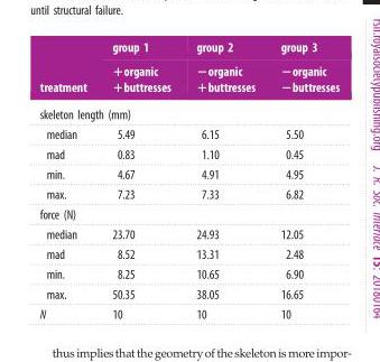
<table><thead><tr><td rowspan="2">treatment</td><td rowspan="2">group 1 +organic +buttresses</td><td rowspan="2">group 2 −organic +buttresses</td><td rowspan="2">group 3 −organic −buttresses</td></tr><tr></tr></thead><tbody><tr><td colspan="4">skeleton length (mm)</td></tr><tr><td>median</td><td>5.49</td><td>6.15</td><td>5.50</td></tr><tr><td>mad</td><td>0.83</td><td>1.10</td><td>0.45</td></tr><tr><td>min.</td><td>4.67</td><td>4.91</td><td>4.95</td></tr><tr><td>max.</td><td>7.23</td><td>7.33</td><td>6.82</td></tr><tr><td colspan="4">force (N)</td></tr><tr><td>median</td><td>23.70</td><td>24.93</td><td>12.05</td></tr><tr><td>mad</td><td>8.52</td><td>13.31</td><td>2.48</td></tr><tr><td>min.</td><td>8.25</td><td>10.65</td><td>6.90</td></tr><tr><td>max.</td><td>50.35</td><td>38.05</td><td>16.65</td></tr><tr><td>N</td><td>10</td><td>10</td><td>10</td></tr></tbody></table>